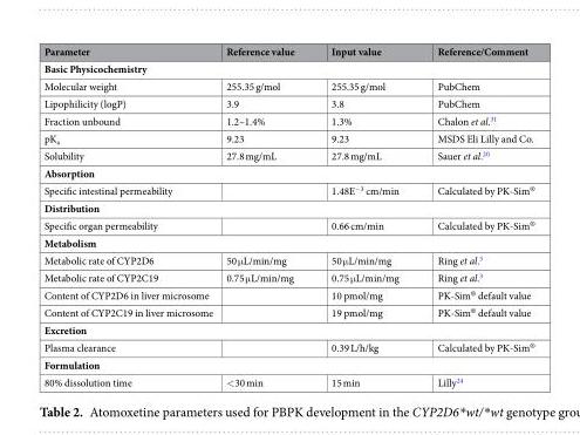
<table><thead><tr><td>Parameter</td><td>Reference value</td><td>Input value</td><td>Reference/Comment</td></tr></thead><tbody><tr><td colspan="4">Basic Physicochemistry</td></tr><tr><td>Molecular weight</td><td>255.35 g/mol</td><td>255.35 g/mol</td><td>PubChem</td></tr><tr><td>Lipophilicity (logP)</td><td>3.9</td><td>3.8</td><td>PubChem</td></tr><tr><td>Fraction unbound</td><td>1.2–1.4%</td><td>1.3%</td><td>Chalon et al.<sup>31</sup></td></tr><tr><td>pK<sub>a</sub></td><td>9.23</td><td>9.23</td><td>MSDS Eli Lilly and Co.</td></tr><tr><td>Solubility</td><td>27.8 mg/mL</td><td>27.8 mg/mL</td><td>Sauer et al.<sup>20</sup></td></tr><tr><td colspan="4">Absorption</td></tr><tr><td>Specific intestinal permeability</td><td></td><td>1.48E<sup>−3</sup> cm/min</td><td>Calculated by PK-Sim<sup>®</sup></td></tr><tr><td colspan="4">Distribution</td></tr><tr><td>Specific organ permeability</td><td></td><td>0.66 cm/min</td><td>Calculated by PK-Sim<sup>®</sup></td></tr><tr><td colspan="4">Metabolism</td></tr><tr><td>Metabolic rate of CYP2D6</td><td>50 μL/min/mg</td><td>50 μL/min/mg</td><td>Ring et al.<sup>3</sup></td></tr><tr><td>Metabolic rate of CYP2C19</td><td>0.75 μL/min/mg</td><td>0.75 μL/min/mg</td><td>Ring et al.<sup>3</sup></td></tr><tr><td>Content of CYP2D6 in liver microsome</td><td></td><td>10 pmol/mg</td><td>PK-Sim<sup>®</sup> default value</td></tr><tr><td>Content of CYP2C19 in liver microsome</td><td></td><td>19 pmol/mg</td><td>PK-Sim<sup>®</sup> default value</td></tr><tr><td colspan="4">Excretion</td></tr><tr><td>Plasma clearance</td><td></td><td>0.39 L/h/kg</td><td>Calculated by PK-Sim<sup>®</sup></td></tr><tr><td colspan="4">Formulation</td></tr><tr><td>80% dissolution time</td><td>&lt;30 min</td><td>15 min</td><td>Lilly<sup>24</sup></td></tr></tbody></table>